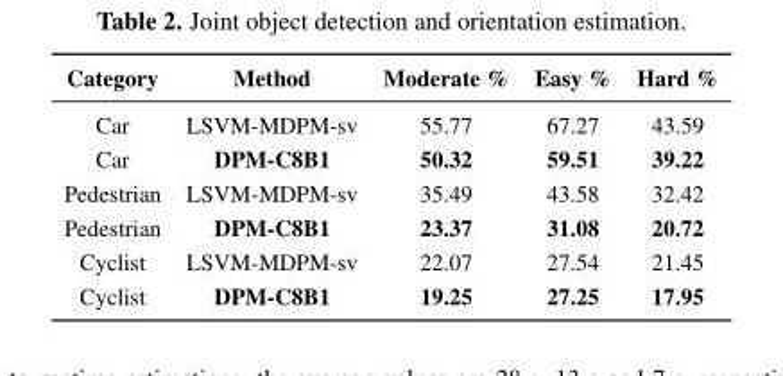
<table><thead><tr><td>Category</td><td>Method</td><td>Moderate %</td><td>Easy %</td><td>Hard %</td></tr></thead><tbody><tr><td>Car</td><td>LSVM-MDPM-sv</td><td>55.77</td><td>67.27</td><td>43.59</td></tr><tr><td>Car</td><td>DPM-C8B1</td><td>50.32</td><td>59.51</td><td>39.22</td></tr><tr><td>Pedestrian</td><td>LSVM-MDPM-sv</td><td>35.49</td><td>43.58</td><td>32.42</td></tr><tr><td>Pedestrian</td><td>DPM-C8B1</td><td>23.37</td><td>31.08</td><td>20.72</td></tr><tr><td>Cyclist</td><td>LSVM-MDPM-sv</td><td>22.07</td><td>27.54</td><td>21.45</td></tr><tr><td>Cyclist</td><td>DPM-C8B1</td><td>19.25</td><td>27.25</td><td>17.95</td></tr></tbody></table>